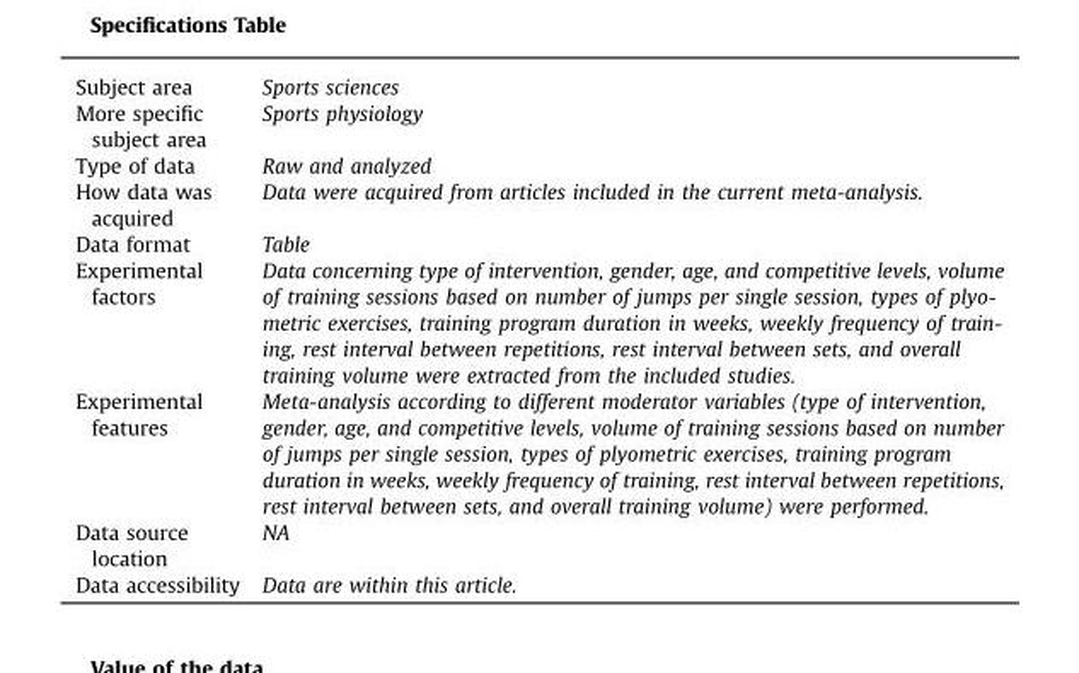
<table><tbody><tr><td>Subject area</td><td>Sports sciences</td></tr><tr><td>More specific subject area</td><td>Sports physiology</td></tr><tr><td>Type of data</td><td>Raw and analyzed</td></tr><tr><td>How data was acquired</td><td>Data were acquired from articles included in the current meta-analysis.</td></tr><tr><td>Data format</td><td>Table</td></tr><tr><td>Experimental factors</td><td>Data concerning type of intervention, gender, age, and competitive levels, volume of training sessions based on number of jumps per single session, types of plyo- metric exercises, training program duration in weeks, weekly frequency of train- ing, rest interval between repetitions, rest interval between sets, and overall training volume were extracted from the included studies.</td></tr><tr><td>Experimental features</td><td>Meta-analysis according to different moderator variables (type of intervention, gender, age, and competitive levels, volume of training sessions based on number of jumps per single session, types of plyometric exercises, training program duration in weeks, weekly frequency of training, rest interval between repetitions, rest interval between sets, and overall training volume) were performed.</td></tr><tr><td>Data source location</td><td>NA</td></tr><tr><td>Data accessibility</td><td>Data are within this article.</td></tr></tbody></table>